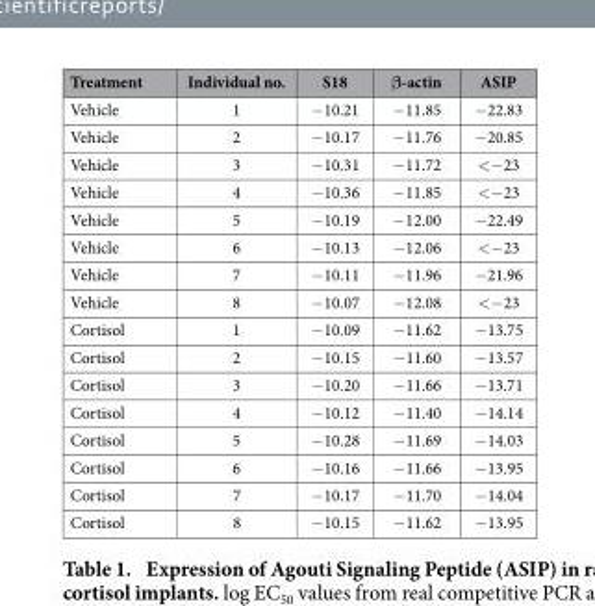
<table><thead><tr><td>Treatment</td><td>Individual no.</td><td>S18</td><td>β-actin</td><td>ASIP</td></tr></thead><tbody><tr><td>Vehicle</td><td>1</td><td>− 10.21</td><td>− 11.85</td><td>− 22.83</td></tr><tr><td>Vehicle</td><td>2</td><td>− 10.17</td><td>− 11.76</td><td>− 20.85</td></tr><tr><td>Vehicle</td><td>3</td><td>− 10.31</td><td>− 11.72</td><td>&lt; − 23</td></tr><tr><td>Vehicle</td><td>4</td><td>− 10.36</td><td>− 11.85</td><td>&lt; − 23</td></tr><tr><td>Vehicle</td><td>5</td><td>− 10.19</td><td>− 12.00</td><td>− 22.49</td></tr><tr><td>Vehicle</td><td>6</td><td>− 10.13</td><td>− 12.06</td><td>&lt; − 23</td></tr><tr><td>Vehicle</td><td>7</td><td>− 10.11</td><td>− 11.96</td><td>− 21.96</td></tr><tr><td>Vehicle</td><td>8</td><td>− 10.07</td><td>− 12.08</td><td>&lt; − 23</td></tr><tr><td>Cortisol</td><td>1</td><td>− 10.09</td><td>− 11.62</td><td>− 13.75</td></tr><tr><td>Cortisol</td><td>2</td><td>− 10.15</td><td>− 11.60</td><td>− 13.57</td></tr><tr><td>Cortisol</td><td>3</td><td>− 10.20</td><td>− 11.66</td><td>− 13.71</td></tr><tr><td>Cortisol</td><td>4</td><td>− 10.12</td><td>− 11.40</td><td>− 14.14</td></tr><tr><td>Cortisol</td><td>5</td><td>− 10.28</td><td>− 11.69</td><td>− 14.03</td></tr><tr><td>Cortisol</td><td>6</td><td>− 10.16</td><td>− 11.66</td><td>− 13.95</td></tr><tr><td>Cortisol</td><td>7</td><td>− 10.17</td><td>− 11.70</td><td>− 14.04</td></tr><tr><td>Cortisol</td><td>8</td><td>− 10.15</td><td>− 11.62</td><td>− 13.95</td></tr></tbody></table>